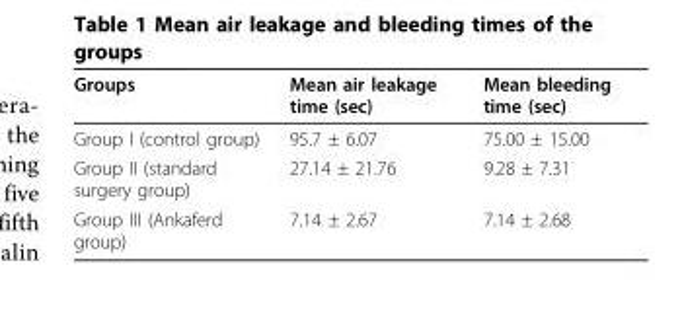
<table><thead><tr><td>Groups</td><td>Mean air leakage time (sec)</td><td>Mean bleeding time (sec)</td></tr></thead><tbody><tr><td>Group I (control group)</td><td>95.7 ± 6.07</td><td>75.00 ± 15.00</td></tr><tr><td>Group II (standard surgery group)</td><td>27.14 ± 21.76</td><td>9.28 ± 7.31</td></tr><tr><td>Group III (Ankaferd group)</td><td>7.14 ± 2.67</td><td>7.14 ± 2.68</td></tr></tbody></table>